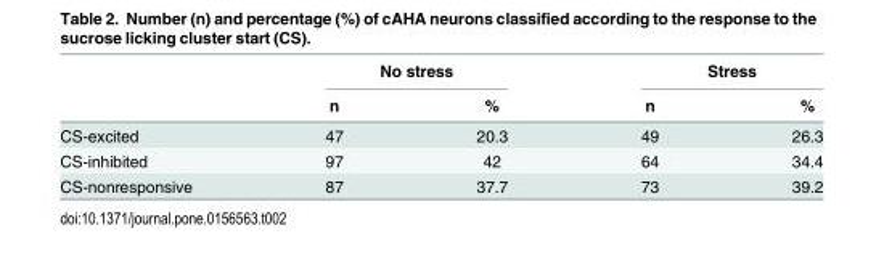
<table><thead><tr><td rowspan="2"></td><td colspan="2">No stress</td><td colspan="2">Stress</td></tr><tr><td>n</td><td>%</td><td>n</td><td>%</td></tr></thead><tbody><tr><td>CS-excited</td><td>47</td><td>20.3</td><td>49</td><td>26.3</td></tr><tr><td>CS-inhibited</td><td>97</td><td>42</td><td>64</td><td>34.4</td></tr><tr><td>CS-nonresponsive</td><td>87</td><td>37.7</td><td>73</td><td>39.2</td></tr></tbody></table>